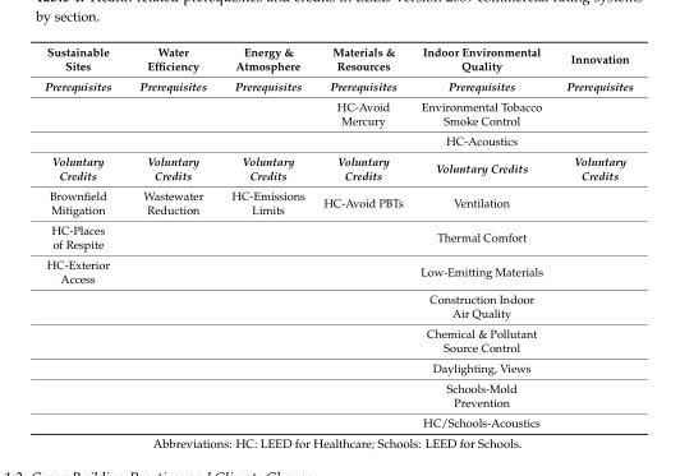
<table><thead><tr><td>Sustainable Sites</td><td>Water Efficiency</td><td>Energy &amp; Atmosphere</td><td>Materials &amp; Resources</td><td>Indoor Environmental Quality</td><td>Innovation</td></tr></thead><tbody><tr><td rowspan="3">Prerequisites</td><td>Prerequisites</td><td>Prerequisites</td><td>Prerequisites</td><td>Prerequisites</td><td>Prerequisites</td></tr><tr><td></td><td></td><td>HC-Avoid Mercury</td><td>Environmental Tobacco Smoke Control</td><td></td></tr><tr><td></td><td></td><td></td><td>HC-Acoustics</td><td></td></tr><tr><td>Voluntary Credits</td><td>Voluntary Credits</td><td>Voluntary Credits</td><td>Voluntary Credits</td><td>Voluntary Credits</td><td>Voluntary Credits</td></tr><tr><td>Brownfield Mitigation</td><td>Wastewater Reduction</td><td>HC-Emissions Limits</td><td>HC-Avoid PBTs</td><td>Ventilation</td><td></td></tr><tr><td>HC-Places of Respite</td><td></td><td></td><td></td><td>Thermal Comfort</td><td></td></tr><tr><td rowspan="6">HC-Exterior Access</td><td></td><td></td><td></td><td>Low-Emitting Materials</td><td></td></tr><tr><td></td><td></td><td></td><td>Construction Indoor Air Quality</td><td></td></tr><tr><td></td><td></td><td></td><td>Chemical &amp; Pollutant Source Control</td><td></td></tr><tr><td></td><td></td><td></td><td>Daylighting, Views</td><td></td></tr><tr><td></td><td></td><td></td><td>Schools-Mold Prevention</td><td></td></tr><tr><td></td><td></td><td></td><td>HC/Schools-Acoustics</td><td></td></tr></tbody></table>